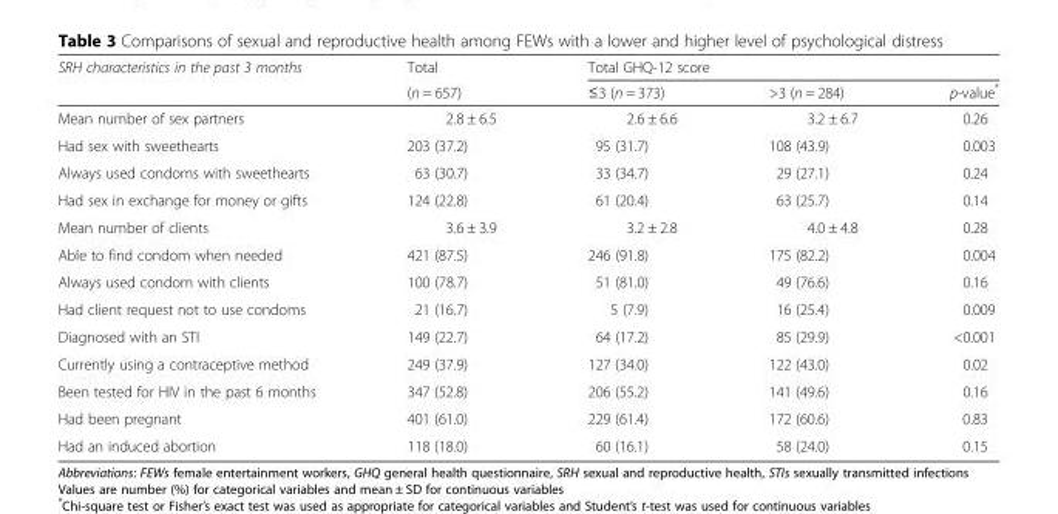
<table><thead><tr><td rowspan="2">SRH characteristics in the past 3 months</td><td rowspan="2">Total (n = 657)</td><td colspan="3">Total GHQ-12 score</td></tr><tr><td>≤3 (n = 373)</td><td>&gt;3 (n = 284)</td><td>p-value*</td></tr></thead><tbody><tr><td>Mean number of sex partners</td><td>2.8 ± 6.5</td><td>2.6 ± 6.6</td><td>3.2 ± 6.7</td><td>0.26</td></tr><tr><td>Had sex with sweethearts</td><td>203 (37.2)</td><td>95 (31.7)</td><td>108 (43.9)</td><td>0.003</td></tr><tr><td>Always used condoms with sweethearts</td><td>63 (30.7)</td><td>33 (34.7)</td><td>29 (27.1)</td><td>0.24</td></tr><tr><td>Had sex in exchange for money or gifts</td><td>124 (22.8)</td><td>61 (20.4)</td><td>63 (25.7)</td><td>0.14</td></tr><tr><td>Mean number of clients</td><td>3.6 ± 3.9</td><td>3.2 ± 2.8</td><td>4.0 ± 4.8</td><td>0.28</td></tr><tr><td>Able to find condom when needed</td><td>421 (87.5)</td><td>246 (91.8)</td><td>175 (82.2)</td><td>0.004</td></tr><tr><td>Always used condom with clients</td><td>100 (78.7)</td><td>51 (81.0)</td><td>49 (76.6)</td><td>0.16</td></tr><tr><td>Had client request not to use condoms</td><td>21 (16.7)</td><td>5 (7.9)</td><td>16 (25.4)</td><td>0.009</td></tr><tr><td>Diagnosed with an STI</td><td>149 (22.7)</td><td>64 (17.2)</td><td>85 (29.9)</td><td>&lt;0.001</td></tr><tr><td>Currently using a contraceptive method</td><td>249 (37.9)</td><td>127 (34.0)</td><td>122 (43.0)</td><td>0.02</td></tr><tr><td>Been tested for HIV in the past 6 months</td><td>347 (52.8)</td><td>206 (55.2)</td><td>141 (49.6)</td><td>0.16</td></tr><tr><td>Had been pregnant</td><td>401 (61.0)</td><td>229 (61.4)</td><td>172 (60.6)</td><td>0.83</td></tr><tr><td>Had an induced abortion</td><td>118 (18.0)</td><td>60 (16.1)</td><td>58 (24.0)</td><td>0.15</td></tr></tbody></table>